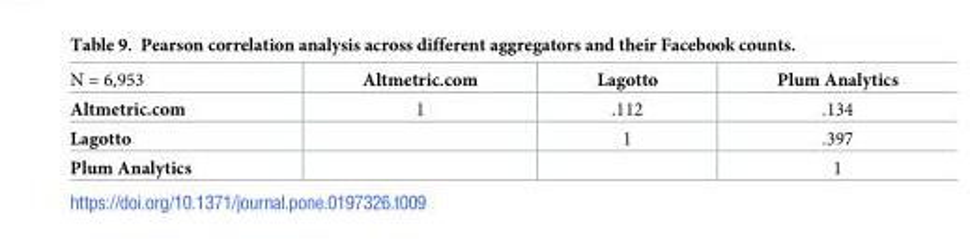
<table><tbody><tr><td>N = 6,953</td><td>Altmetric.com</td><td>Lagotto</td><td>Plum Analytics</td></tr><tr><td>Altmetric.com</td><td>1</td><td>.112</td><td>.134</td></tr><tr><td>Lagotto</td><td></td><td>1</td><td>.397</td></tr><tr><td>Plum Analytics</td><td></td><td></td><td>1</td></tr></tbody></table>